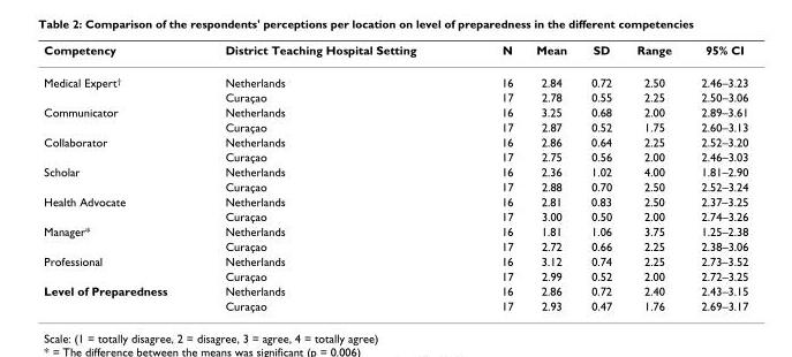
<table><thead><tr><td>Competency</td><td>District Teaching Hospital Setting</td><td>N</td><td>Mean</td><td>SD</td><td>Range</td><td>95% CI</td></tr></thead><tbody><tr><td rowspan="2">Medical Expert<sup>†</sup></td><td>Netherlands</td><td>16</td><td>2.84</td><td>0.72</td><td>2.50</td><td>2.46–3.23</td></tr><tr><td>Curaçao</td><td>17</td><td>2.78</td><td>0.55</td><td>2.25</td><td>2.50–3.06</td></tr><tr><td rowspan="2">Communicator</td><td>Netherlands</td><td>16</td><td>3.25</td><td>0.68</td><td>2.00</td><td>2.89–3.61</td></tr><tr><td>Curaçao</td><td>17</td><td>2.87</td><td>0.52</td><td>1.75</td><td>2.60–3.13</td></tr><tr><td rowspan="2">Collaborator</td><td>Netherlands</td><td>16</td><td>2.86</td><td>0.64</td><td>2.25</td><td>2.52–3.20</td></tr><tr><td>Curaçao</td><td>17</td><td>2.75</td><td>0.56</td><td>2.00</td><td>2.46–3.03</td></tr><tr><td rowspan="2">Scholar</td><td>Netherlands</td><td>16</td><td>2.36</td><td>1.02</td><td>4.00</td><td>1.81–2.90</td></tr><tr><td>Curaçao</td><td>17</td><td>2.88</td><td>0.70</td><td>2.50</td><td>2.52–3.24</td></tr><tr><td rowspan="2">Health Advocate</td><td>Netherlands</td><td>16</td><td>2.81</td><td>0.83</td><td>2.50</td><td>2.37–3.25</td></tr><tr><td>Curaçao</td><td>17</td><td>3.00</td><td>0.50</td><td>2.00</td><td>2.74–3.26</td></tr><tr><td rowspan="2">Manager*</td><td>Netherlands</td><td>16</td><td>1.81</td><td>1.06</td><td>3.75</td><td>1.25–2.38</td></tr><tr><td>Curaçao</td><td>17</td><td>2.72</td><td>0.66</td><td>2.25</td><td>2.38–3.06</td></tr><tr><td rowspan="2">Professional</td><td>Netherlands</td><td>16</td><td>3.12</td><td>0.74</td><td>2.25</td><td>2.73–3.52</td></tr><tr><td>Curaçao</td><td>17</td><td>2.99</td><td>0.52</td><td>2.00</td><td>2.72–3.25</td></tr><tr><td rowspan="2">Level of Preparedness</td><td>Netherlands</td><td>16</td><td>2.86</td><td>0.72</td><td>2.40</td><td>2.43–3.15</td></tr><tr><td>Curaçao</td><td>17</td><td>2.93</td><td>0.47</td><td>1.76</td><td>2.69–3.17</td></tr></tbody></table>